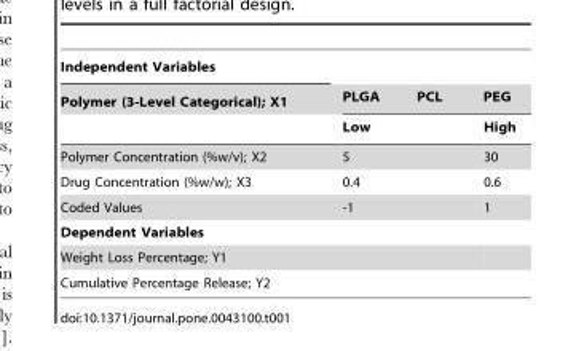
<table><thead><tr><td rowspan="3">Independent Variables Polymer (3-Level Categorical); X1</td><td></td><td></td></tr><tr><td colspan="2">PLGA PCL PEG</td></tr><tr><td>Low</td><td>High</td></tr></thead><tbody><tr><td>Polymer Concentration (%w/v); X2</td><td>5</td><td>30</td></tr><tr><td>Drug Concentration (%w/w); X3</td><td>0.4</td><td>0.6</td></tr><tr><td>Coded Values</td><td>-1</td><td>1</td></tr><tr><td colspan="3">Dependent Variables</td></tr><tr><td colspan="3">Weight Loss Percentage; Y1</td></tr><tr><td>Cumulative Percentage Release; Y2</td><td></td><td></td></tr></tbody></table>